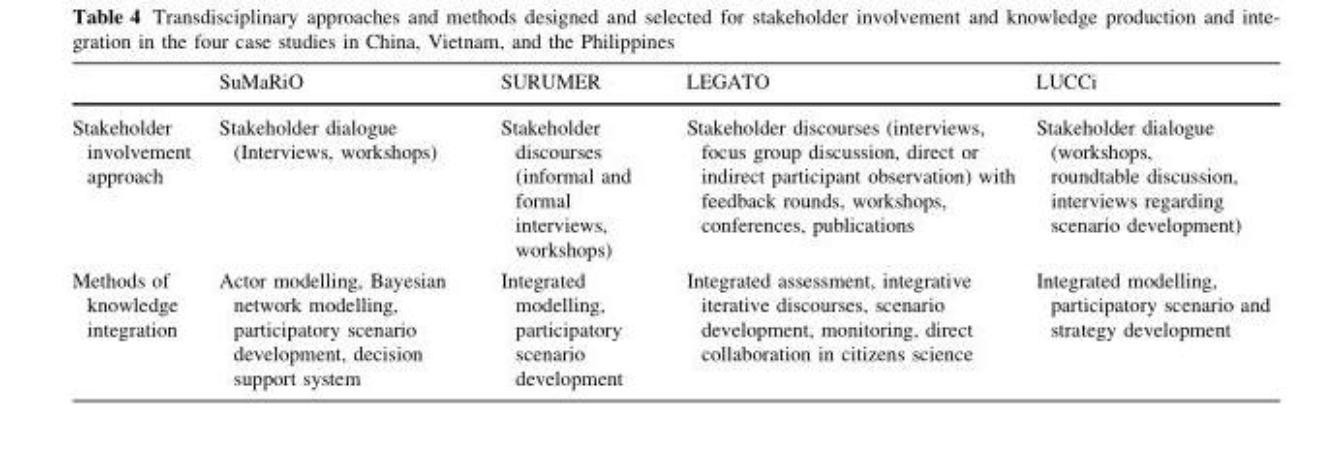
<table><thead><tr><td></td><td>SuMaRiO</td><td>SURUMER</td><td>LEGATO</td><td>LUCCi</td></tr></thead><tbody><tr><td>Stakeholder involvement approach</td><td>Stakeholder dialogue (Interviews, workshops)</td><td>Stakeholder discourses (informal and formal interviews, workshops)</td><td>Stakeholder discourses (interviews, focus group discussion, direct or indirect participant observation) with feedback rounds, workshops, conferences, publications</td><td>Stakeholder dialogue (workshops, roundtable discussion, interviews regarding scenario development)</td></tr><tr><td>Methods of knowledge integration</td><td>Actor modelling, Bayesian network modelling, participatory scenario development, decision support system</td><td>Integrated modelling, participatory scenario development</td><td>Integrated assessment, integrative iterative discourses, scenario development, monitoring, direct collaboration in citizens science</td><td>Integrated modelling, participatory scenario and strategy development</td></tr></tbody></table>